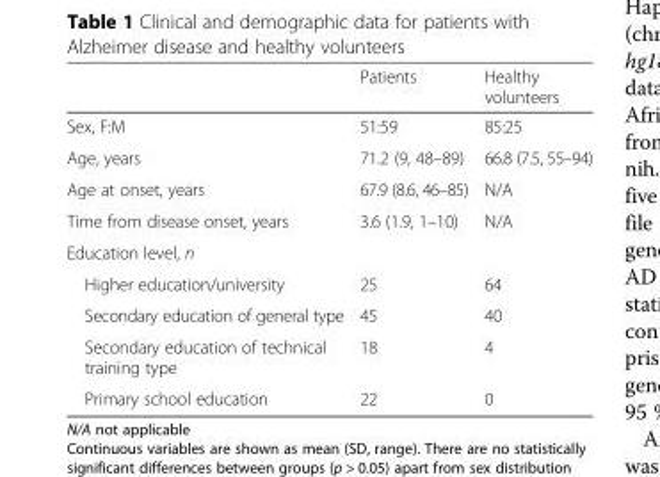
<table><thead><tr><td></td><td>Patients</td><td>Healthy volunteers</td></tr></thead><tbody><tr><td>Sex, F:M</td><td>51:59</td><td>85:25</td></tr><tr><td>Age, years</td><td>71.2 (9, 48–89)</td><td>66.8 (7.5, 55–94)</td></tr><tr><td>Age at onset, years</td><td>67.9 (8.6, 46–85)</td><td>N/A</td></tr><tr><td>Time from disease onset, years</td><td>3.6 (1.9, 1–10)</td><td>N/A</td></tr><tr><td colspan="3">Education level, n</td></tr><tr><td>Higher education/university</td><td>25</td><td>64</td></tr><tr><td>Secondary education of general type</td><td>45</td><td>40</td></tr><tr><td>Secondary education of technical training type</td><td>18</td><td>4</td></tr><tr><td>Primary school education</td><td>22</td><td>0</td></tr></tbody></table>